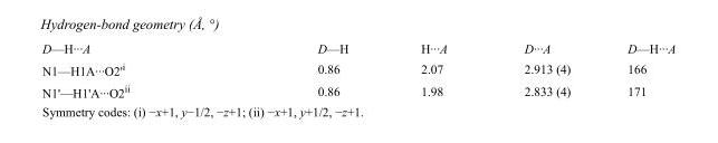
<table><tbody><tr><td>D—H···A</td><td>D—H</td><td>H···A</td><td>D···A</td><td>D—H···A</td></tr><tr><td>N1—H1A···O2&#x27;<sup>i</sup></td><td>0.86</td><td>2.07</td><td>2.913 (4)</td><td>166</td></tr><tr><td>N1&#x27;—H1&#x27;A···O2<sup>ii</sup></td><td>0.86</td><td>1.98</td><td>2.833 (4)</td><td>171</td></tr></tbody></table>